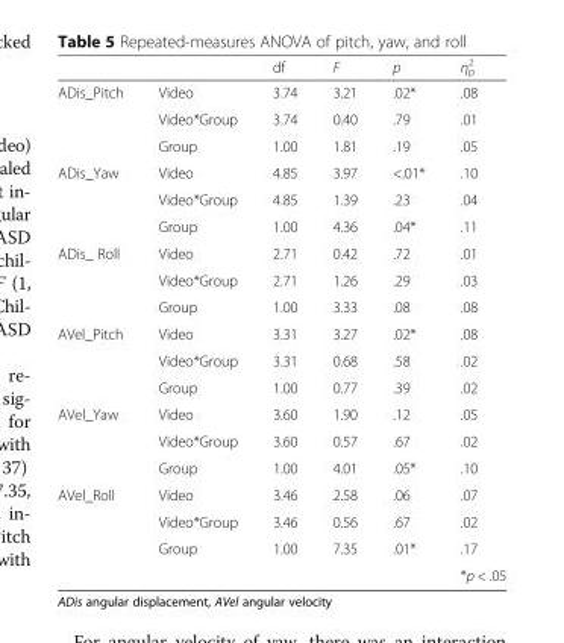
<table><thead><tr><td></td><td></td><td>df</td><td>F</td><td>p</td><td>η<sub>p</sub> <sup>2</sup></td></tr></thead><tbody><tr><td rowspan="3">ADis_Pitch</td><td>Video</td><td>3.74</td><td>3.21</td><td>.02*</td><td>.08</td></tr><tr><td>Video*Group</td><td>3.74</td><td>0.40</td><td>.79</td><td>.01</td></tr><tr><td>Group</td><td>1.00</td><td>1.81</td><td>.19</td><td>.05</td></tr><tr><td rowspan="3">ADis_Yaw</td><td>Video</td><td>4.85</td><td>3.97</td><td>&lt;.01*</td><td>.10</td></tr><tr><td>Video*Group</td><td>4.85</td><td>1.39</td><td>.23</td><td>.04</td></tr><tr><td>Group</td><td>1.00</td><td>4.36</td><td>.04*</td><td>.11</td></tr><tr><td rowspan="3">ADis_ Roll</td><td>Video</td><td>2.71</td><td>0.42</td><td>.72</td><td>.01</td></tr><tr><td>Video*Group</td><td>2.71</td><td>1.26</td><td>.29</td><td>.03</td></tr><tr><td>Group</td><td>1.00</td><td>3.33</td><td>.08</td><td>.08</td></tr><tr><td rowspan="3">AVel_Pitch</td><td>Video</td><td>3.31</td><td>3.27</td><td>.02*</td><td>.08</td></tr><tr><td>Video*Group</td><td>3.31</td><td>0.68</td><td>.58</td><td>.02</td></tr><tr><td>Group</td><td>1.00</td><td>0.77</td><td>.39</td><td>.02</td></tr><tr><td rowspan="3">AVel_Yaw</td><td>Video</td><td>3.60</td><td>1.90</td><td>.12</td><td>.05</td></tr><tr><td>Video*Group</td><td>3.60</td><td>0.57</td><td>.67</td><td>.02</td></tr><tr><td>Group</td><td>1.00</td><td>4.01</td><td>.05*</td><td>.10</td></tr><tr><td rowspan="4">AVel_Roll</td><td>Video</td><td>3.46</td><td>2.58</td><td>.06</td><td>.07</td></tr><tr><td>Video*Group</td><td>3.46</td><td>0.56</td><td>.67</td><td>.02</td></tr><tr><td>Group</td><td>1.00</td><td>7.35</td><td>.01*</td><td>.17</td></tr><tr><td></td><td></td><td></td><td></td><td>*p &lt; .05</td></tr></tbody></table>